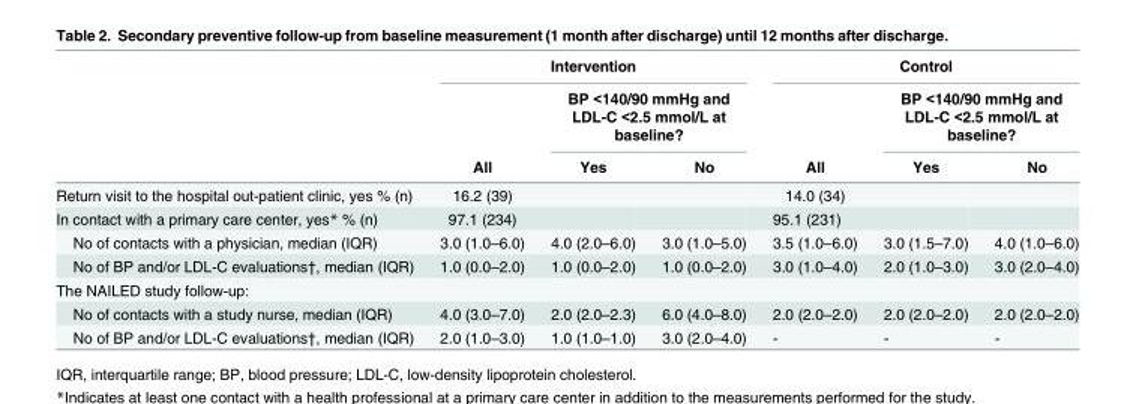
<table><thead><tr><td rowspan="3"></td><td colspan="3">Intervention</td><td colspan="3">Control</td></tr><tr><td rowspan="2">All</td><td colspan="2">BP &lt;140/90 mmHg and LDL-C &lt;2.5 mmol/L at baseline?</td><td rowspan="2">All</td><td colspan="2">BP &lt;140/90 mmHg and LDL-C &lt;2.5 mmol/L at baseline?</td></tr><tr><td>Yes</td><td>No</td><td>Yes</td><td>No</td></tr></thead><tbody><tr><td>Return visit to the hospital out-patient clinic, yes % (n)</td><td>16.2 (39)</td><td></td><td></td><td>14.0 (34)</td><td></td><td></td></tr><tr><td>In contact with a primary care center, yes* % (n)</td><td>97.1 (234)</td><td></td><td></td><td>95.1 (231)</td><td></td><td></td></tr><tr><td>No of contacts with a physician, median (IQR)</td><td>3.0 (1.0–6.0)</td><td>4.0 (2.0–6.0)</td><td>3.0 (1.0–5.0)</td><td>3.5 (1.0–6.0)</td><td>3.0 (1.5–7.0)</td><td>4.0 (1.0–6.0)</td></tr><tr><td>No of BP and/or LDL-C evaluations†, median (IQR)</td><td>1.0 (0.0–2.0)</td><td>1.0 (0.0–2.0)</td><td>1.0 (0.0–2.0)</td><td>3.0 (1.0–4.0)</td><td>2.0 (1.0–3.0)</td><td>3.0 (2.0–4.0)</td></tr><tr><td colspan="7">The NAILED study follow-up:</td></tr><tr><td>No of contacts with a study nurse, median (IQR)</td><td>4.0 (3.0–7.0)</td><td>2.0 (2.0–2.3)</td><td>6.0 (4.0–8.0)</td><td>2.0 (2.0–2.0)</td><td>2.0 (2.0–2.0)</td><td>2.0 (2.0–2.0)</td></tr><tr><td>No of BP and/or LDL-C evaluations†, median (IQR)</td><td>2.0 (1.0–3.0)</td><td>1.0 (1.0–1.0)</td><td>3.0 (2.0–4.0)</td><td>-</td><td>-</td><td>-</td></tr></tbody></table>